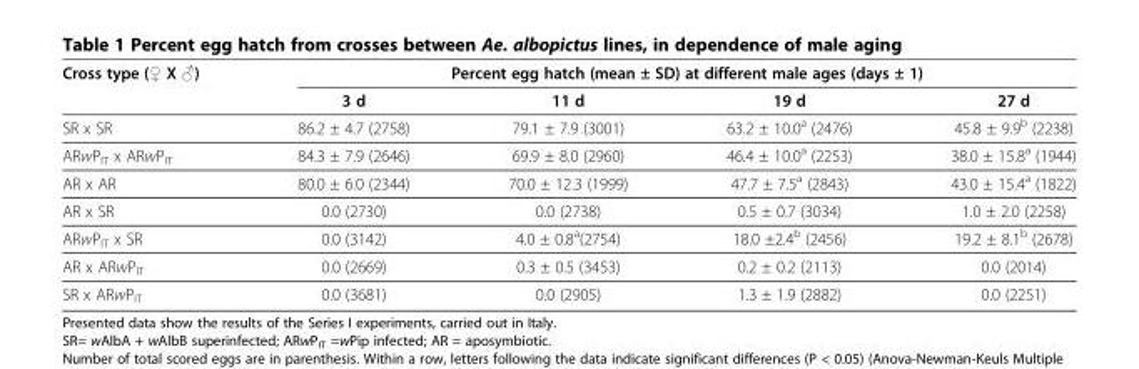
<table><thead><tr><td rowspan="2">Cross type (♀ X ♂)</td><td colspan="4">Percent egg hatch (mean ± SD) at different male ages (days ± 1)</td></tr><tr><td>3 d</td><td>11 d</td><td>19 d</td><td>27 d</td></tr></thead><tbody><tr><td>SR x SR</td><td>86.2 ± 4.7 (2758)</td><td>79.1 ± 7.9 (3001)</td><td>63.2 ± 10.0<sup>a</sup> (2476)</td><td>45.8 ± 9.9<sup>b</sup> (2238)</td></tr><tr><td>ARwP<sub>IT</sub> x ARwP<sub>IT</sub></td><td>84.3 ± 7.9 (2646)</td><td>69.9 ± 8.0 (2960)</td><td>46.4 ± 10.0<sup>a</sup> (2253)</td><td>38.0 ± 15.8<sup>a</sup> (1944)</td></tr><tr><td>AR x AR</td><td>80.0 ± 6.0 (2344)</td><td>70.0 ± 12.3 (1999)</td><td>47.7 ± 7.5<sup>a</sup> (2843)</td><td>43.0 ± 15.4<sup>a</sup> (1822)</td></tr><tr><td>AR x SR</td><td>0.0 (2730)</td><td>0.0 (2738)</td><td>0.5 ± 0.7 (3034)</td><td>1.0 ± 2.0 (2258)</td></tr><tr><td>ARwP<sub>IT</sub> x SR</td><td>0.0 (3142)</td><td>4.0 ± 0.8<sup>a</sup>(2754)</td><td>18.0 ±2.4<sup>b</sup> (2456)</td><td>19.2 ± 8.1<sup>b</sup> (2678)</td></tr><tr><td>AR x ARwP<sub>IT</sub></td><td>0.0 (2669)</td><td>0.3 ± 0.5 (3453)</td><td>0.2 ± 0.2 (2113)</td><td>0.0 (2014)</td></tr><tr><td>SR x ARwP<sub>IT</sub></td><td>0.0 (3681)</td><td>0.0 (2905)</td><td>1.3 ± 1.9 (2882)</td><td>0.0 (2251)</td></tr></tbody></table>